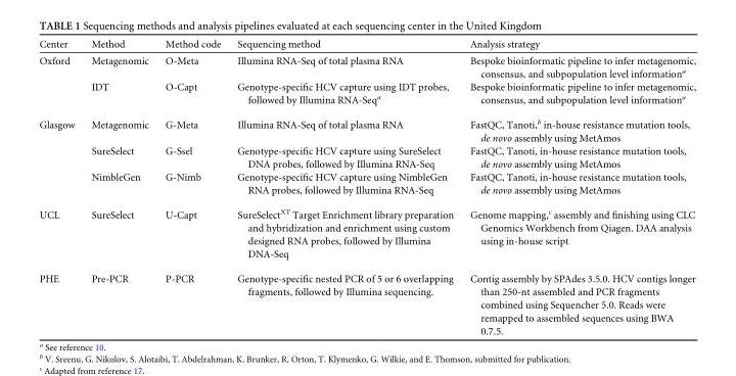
<table><thead><tr><td>Center</td><td>Method</td><td>Method code</td><td>Sequencing method</td><td>Analysis strategy</td></tr></thead><tbody><tr><td rowspan="2">Oxford</td><td>Metagenomic</td><td>O-Meta</td><td>Illumina RNA-Seq of total plasma RNA</td><td>Bespoke bioinformatic pipeline to infer metagenomic, consensus, and subpopulation level information<sup>a</sup></td></tr><tr><td>IDT</td><td>O-Capt</td><td>Genotype-specific HCV capture using IDT probes, followed by Illumina RNA-Seq<sup>a</sup></td><td>Bespoke bioinformatic pipeline to infer metagenomic, consensus, and subpopulation level information<sup>a</sup></td></tr><tr><td rowspan="3">Glasgow</td><td>Metagenomic</td><td>G-Meta</td><td>Illumina RNA-Seq of total plasma RNA</td><td>FastQC, Tanoti,<sup>b</sup> in-house resistance mutation tools, de novo assembly using MetAmos</td></tr><tr><td>SureSelect</td><td>G-Ssel</td><td>Genotype-specific HCV capture using SureSelect DNA probes, followed by Illumina RNA-Seq</td><td>FastQC, Tanoti, in-house resistance mutation tools, de novo assembly using MetAmos</td></tr><tr><td>NimbleGen</td><td>G-Nimb</td><td>Genotype-specific HCV capture using NimbleGen RNA probes, followed by Illumina RNA-Seq</td><td>FastQC, Tanoti, in-house resistance mutation tools, de novo assembly using MetAmos</td></tr><tr><td>UCL</td><td>SureSelect</td><td>U-Capt</td><td>SureSelect<sup>XT</sup> Target Enrichment library preparation and hybridization and enrichment using custom designed RNA probes, followed by Illumina DNA-Seq</td><td>Genome mapping,<sup>c</sup> assembly and finishing using CLC Genomics Workbench from Qiagen. DAA analysis using in-house script</td></tr><tr><td>PHE</td><td>Pre-PCR</td><td>P-PCR</td><td>Genotype-specific nested PCR of 5 or 6 overlapping fragments, followed by Illumina sequencing.</td><td>Contig assembly by SPAdes 3.5.0. HCV contigs longer than 250-nt assembled and PCR fragments combined using Sequencher 5.0. Reads were remapped to assembled sequences using BWA 0.7.5.</td></tr></tbody></table>